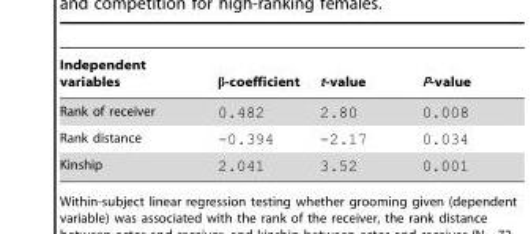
<table><thead><tr><td>Independent variables</td><td>β-coefficient</td><td>t-value</td><td>P-value</td></tr></thead><tbody><tr><td>Rank of receiver</td><td>0.482</td><td>2.80</td><td>0.008</td></tr><tr><td>Rank distance</td><td>-0.394</td><td>-2.17</td><td>0.034</td></tr><tr><td>Kinship</td><td>2.041</td><td>3.52</td><td>0.001</td></tr></tbody></table>